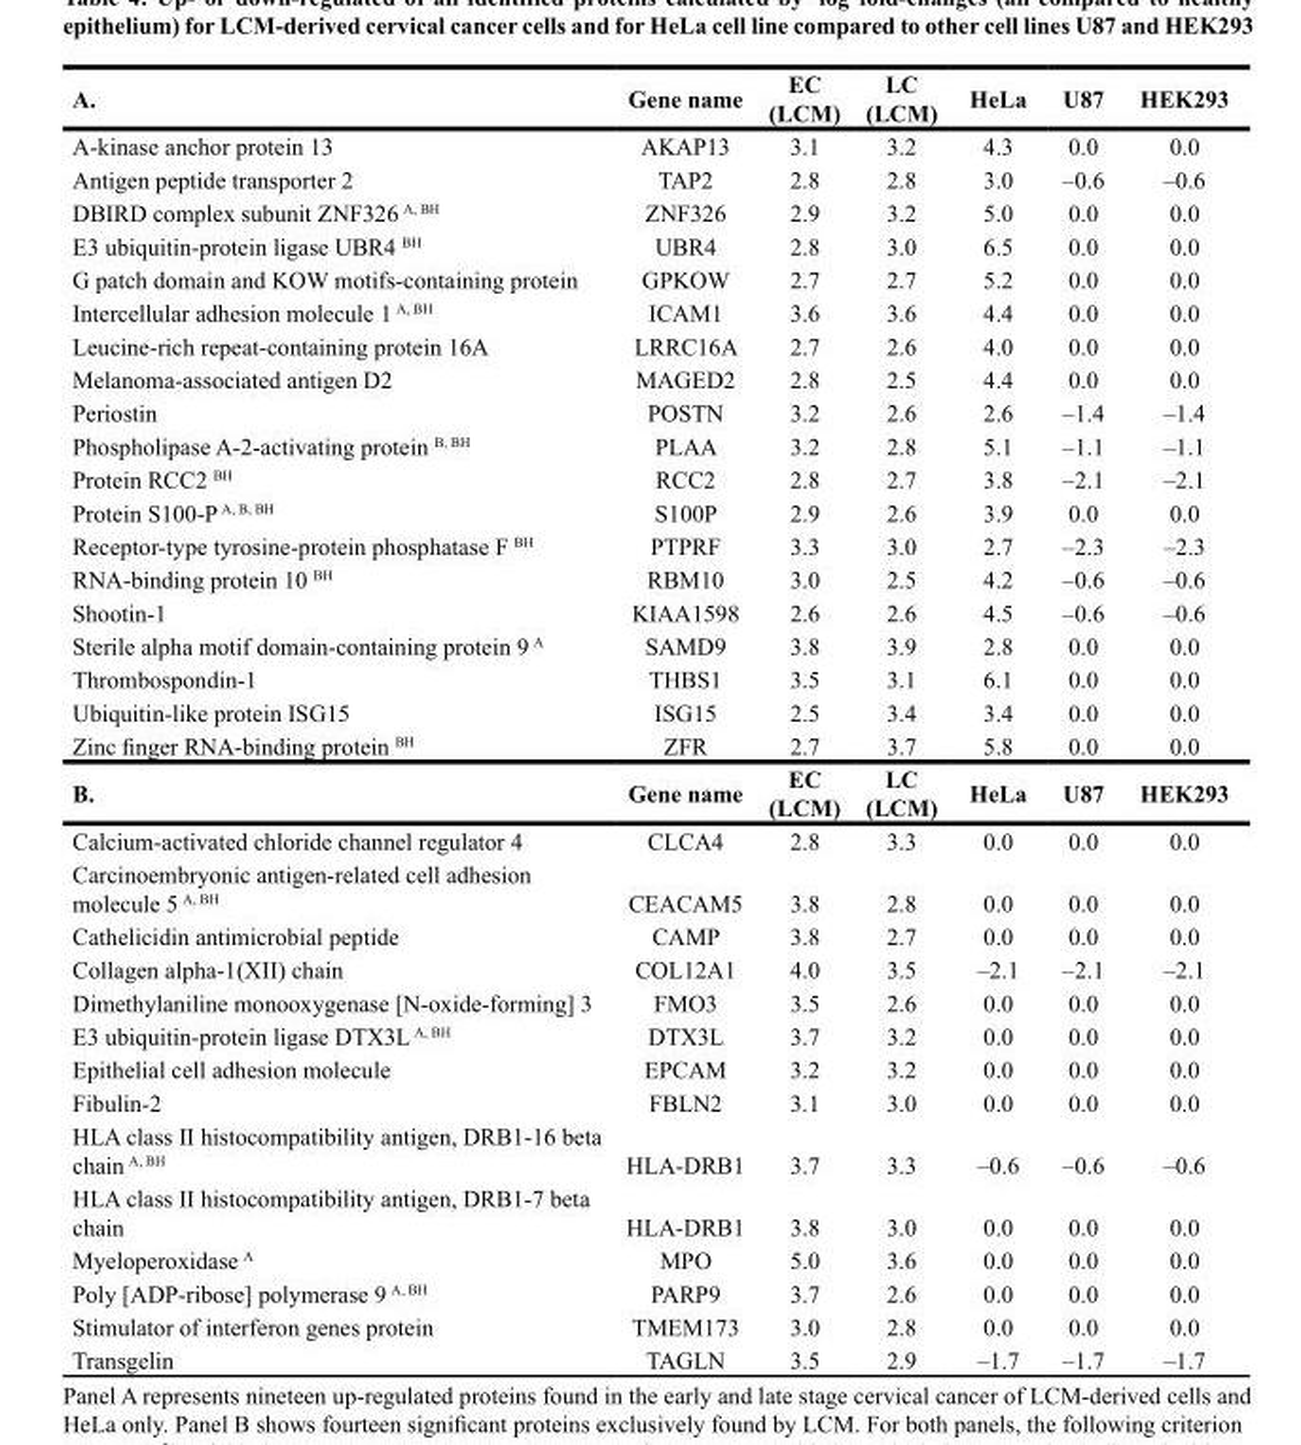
<table><tbody><tr><td>A.</td><td>Gene name</td><td>EC (LCM)</td><td>LC (LCM)</td><td>HeLa</td><td>U87</td><td>HEK293</td></tr><tr><td>A-kinase anchor protein 13</td><td>AKAP13</td><td>3.1</td><td>3.2</td><td>4.3</td><td>0.0</td><td>0.0</td></tr><tr><td>Antigen peptide transporter 2</td><td>TAP2</td><td>2.8</td><td>2.8</td><td>3.0</td><td>–0.6</td><td>–0.6</td></tr><tr><td>DBIRD complex subunit ZNF326 <sup>A, BH</sup></td><td>ZNF326</td><td>2.9</td><td>3.2</td><td>5.0</td><td>0.0</td><td>0.0</td></tr><tr><td>E3 ubiquitin-protein ligase UBR4 <sup>BH</sup></td><td>UBR4</td><td>2.8</td><td>3.0</td><td>6.5</td><td>0.0</td><td>0.0</td></tr><tr><td>G patch domain and KOW motifs-containing protein</td><td>GPKOW</td><td>2.7</td><td>2.7</td><td>5.2</td><td>0.0</td><td>0.0</td></tr><tr><td>Intercellular adhesion molecule 1 <sup>A, BH</sup></td><td>ICAM1</td><td>3.6</td><td>3.6</td><td>4.4</td><td>0.0</td><td>0.0</td></tr><tr><td>Leucine-rich repeat-containing protein 16A</td><td>LRRC16A</td><td>2.7</td><td>2.6</td><td>4.0</td><td>0.0</td><td>0.0</td></tr><tr><td>Melanoma-associated antigen D2</td><td>MAGED2</td><td>2.8</td><td>2.5</td><td>4.4</td><td>0.0</td><td>0.0</td></tr><tr><td>Periostin</td><td>POSTN</td><td>3.2</td><td>2.6</td><td>2.6</td><td>–1.4</td><td>–1.4</td></tr><tr><td>Phospholipase A-2-activating protein <sup>B, BH</sup></td><td>PLAA</td><td>3.2</td><td>2.8</td><td>5.1</td><td>–1.1</td><td>–1.1</td></tr><tr><td>Protein RCC2 <sup>BH</sup></td><td>RCC2</td><td>2.8</td><td>2.7</td><td>3.8</td><td>–2.1</td><td>–2.1</td></tr><tr><td>Protein S100-P <sup>A, B, BH</sup></td><td>S100P</td><td>2.9</td><td>2.6</td><td>3.9</td><td>0.0</td><td>0.0</td></tr><tr><td>Receptor-type tyrosine-protein phosphatase F <sup>BH</sup></td><td>PTPRF</td><td>3.3</td><td>3.0</td><td>2.7</td><td>–2.3</td><td>–2.3</td></tr><tr><td>RNA-binding protein 10 <sup>BH</sup></td><td>RBM10</td><td>3.0</td><td>2.5</td><td>4.2</td><td>–0.6</td><td>–0.6</td></tr><tr><td>Shootin-1</td><td>KIAA1598</td><td>2.6</td><td>2.6</td><td>4.5</td><td>–0.6</td><td>–0.6</td></tr><tr><td>Sterile alpha motif domain-containing protein 9 <sup>A</sup></td><td>SAMD9</td><td>3.8</td><td>3.9</td><td>2.8</td><td>0.0</td><td>0.0</td></tr><tr><td>Thrombospondin-1</td><td>THBS1</td><td>3.5</td><td>3.1</td><td>6.1</td><td>0.0</td><td>0.0</td></tr><tr><td>Ubiquitin-like protein ISG15</td><td>ISG15</td><td>2.5</td><td>3.4</td><td>3.4</td><td>0.0</td><td>0.0</td></tr><tr><td>Zinc finger RNA-binding protein <sup>BH</sup></td><td>ZFR</td><td>2.7</td><td>3.7</td><td>5.8</td><td>0.0</td><td>0.0</td></tr><tr><td>B.</td><td>Gene name</td><td>EC (LCM)</td><td>LC (LCM)</td><td>HeLa</td><td>U87</td><td>HEK293</td></tr><tr><td>Calcium-activated chloride channel regulator 4</td><td>CLCA4</td><td>2.8</td><td>3.3</td><td>0.0</td><td>0.0</td><td>0.0</td></tr><tr><td>Carcinoembryonic antigen-related cell adhesion molecule 5 <sup>A, BH</sup></td><td>CEACAM5</td><td>3.8</td><td>2.8</td><td>0.0</td><td>0.0</td><td>0.0</td></tr><tr><td>Cathelicidin antimicrobial peptide</td><td>CAMP</td><td>3.8</td><td>2.7</td><td>0.0</td><td>0.0</td><td>0.0</td></tr><tr><td>Collagen alpha-1(XII) chain</td><td>COL12A1</td><td>4.0</td><td>3.5</td><td>–2.1</td><td>–2.1</td><td>–2.1</td></tr><tr><td>Dimethylaniline monooxygenase [N-oxide-forming] 3</td><td>FMO3</td><td>3.5</td><td>2.6</td><td>0.0</td><td>0.0</td><td>0.0</td></tr><tr><td>E3 ubiquitin-protein ligase DTX3L <sup>A, BH</sup></td><td>DTX3L</td><td>3.7</td><td>3.2</td><td>0.0</td><td>0.0</td><td>0.0</td></tr><tr><td>Epithelial cell adhesion molecule</td><td>EPCAM</td><td>3.2</td><td>3.2</td><td>0.0</td><td>0.0</td><td>0.0</td></tr><tr><td>Fibulin-2</td><td>FBLN2</td><td>3.1</td><td>3.0</td><td>0.0</td><td>0.0</td><td>0.0</td></tr><tr><td>HLA class II histocompatibility antigen, DRB1-16 beta chain <sup>A, BH</sup></td><td>HLA-DRB1</td><td>3.7</td><td>3.3</td><td>–0.6</td><td>–0.6</td><td>–0.6</td></tr><tr><td>HLA class II histocompatibility antigen, DRB1-7 beta chain</td><td>HLA-DRB1</td><td>3.8</td><td>3.0</td><td>0.0</td><td>0.0</td><td>0.0</td></tr><tr><td>Myeloperoxidase <sup>A</sup></td><td>MPO</td><td>5.0</td><td>3.6</td><td>0.0</td><td>0.0</td><td>0.0</td></tr><tr><td>Poly [ADP-ribose] polymerase 9 <sup>A, BH</sup></td><td>PARP9</td><td>3.7</td><td>2.6</td><td>0.0</td><td>0.0</td><td>0.0</td></tr><tr><td>Stimulator of interferon genes protein</td><td>TMEM173</td><td>3.0</td><td>2.8</td><td>0.0</td><td>0.0</td><td>0.0</td></tr><tr><td>Transgelin</td><td>TAGLN</td><td>3.5</td><td>2.9</td><td>–1.7</td><td>–1.7</td><td>–1.7</td></tr></tbody></table>